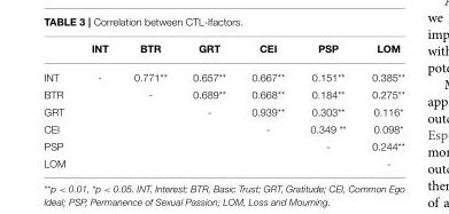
<table><thead><tr><td></td><td>INT</td><td>BTR</td><td>GRT</td><td>CEI</td><td>PSP</td><td>LOM</td></tr></thead><tbody><tr><td>INT</td><td>-</td><td>0.771**</td><td>0.657**</td><td>0.667**</td><td>0.151**</td><td>0.385**</td></tr><tr><td>BTR</td><td></td><td>-</td><td>0.689**</td><td>0.668**</td><td>0.184**</td><td>0.275**</td></tr><tr><td>GRT</td><td></td><td></td><td>-</td><td>0.939**</td><td>0.303**</td><td>0.116*</td></tr><tr><td>CEI</td><td></td><td></td><td></td><td>-</td><td>0.349 **</td><td>0.098*</td></tr><tr><td>PSP</td><td></td><td></td><td></td><td></td><td>-</td><td>0.244**</td></tr><tr><td>LOM</td><td></td><td></td><td></td><td></td><td></td><td>-</td></tr></tbody></table>